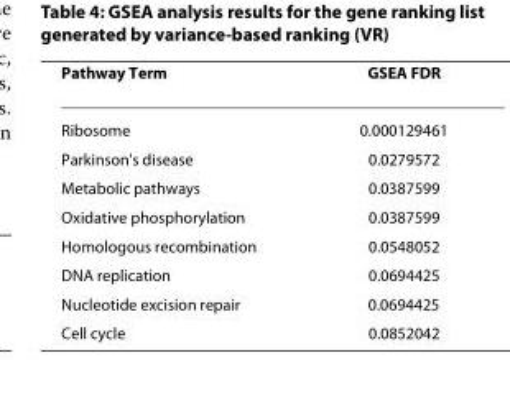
<table><thead><tr><td>Pathway Term</td><td>GSEA FDR</td></tr></thead><tbody><tr><td>Ribosome</td><td>0.000129461</td></tr><tr><td>Parkinson&#x27;s disease</td><td>0.0279572</td></tr><tr><td>Metabolic pathways</td><td>0.0387599</td></tr><tr><td>Oxidative phosphorylation</td><td>0.0387599</td></tr><tr><td>Homologous recombination</td><td>0.0548052</td></tr><tr><td>DNA replication</td><td>0.0694425</td></tr><tr><td>Nucleotide excision repair</td><td>0.0694425</td></tr><tr><td>Cell cycle</td><td>0.0852042</td></tr></tbody></table>